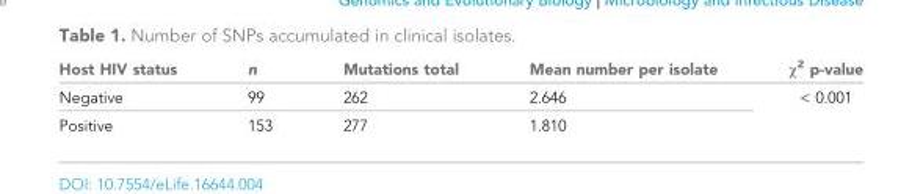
<table><thead><tr><td>Host HIV status</td><td>n</td><td>Mutations total</td><td>Mean number per isolate</td><td>χ<sup>2</sup> p-value</td></tr></thead><tbody><tr><td>Negative</td><td>99</td><td>262</td><td>2.646</td><td rowspan="2">&lt; 0.001</td></tr><tr><td>Positive</td><td>153</td><td>277</td><td>1.810</td></tr></tbody></table>